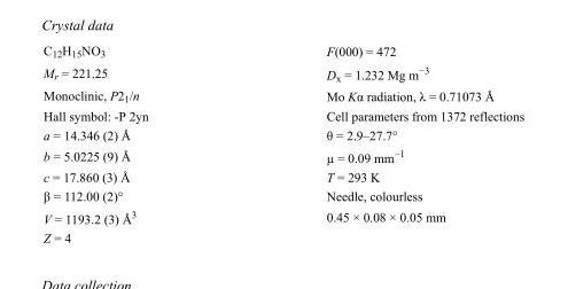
<table><tbody><tr><td>C<sub>12</sub>H<sub>15</sub>NO<sub>3</sub></td><td>F(000) = 472</td></tr><tr><td>M<sub>r</sub> = 221.25</td><td>D<sub>x</sub> = 1.232 Mg m<sup>−3</sup></td></tr><tr><td>Monoclinic, P2<sub>1</sub>/n</td><td>Mo Kα radiation, λ = 0.71073 Å</td></tr><tr><td>Hall symbol: -P 2yn</td><td>Cell parameters from 1372 reflections</td></tr><tr><td>a = 14.346 (2) Å</td><td>θ = 2.9–27.7°</td></tr><tr><td>b = 5.0225 (9) Å</td><td>µ = 0.09 mm<sup>−1</sup></td></tr><tr><td>c = 17.860 (3) Å</td><td>T = 293 K</td></tr><tr><td>β = 112.00 (2)°</td><td>Needle, colourless</td></tr><tr><td>V = 1193.2 (3) Å<sup>3</sup></td><td>0.45 × 0.08 × 0.05 mm</td></tr><tr><td>Z = 4</td><td></td></tr></tbody></table>